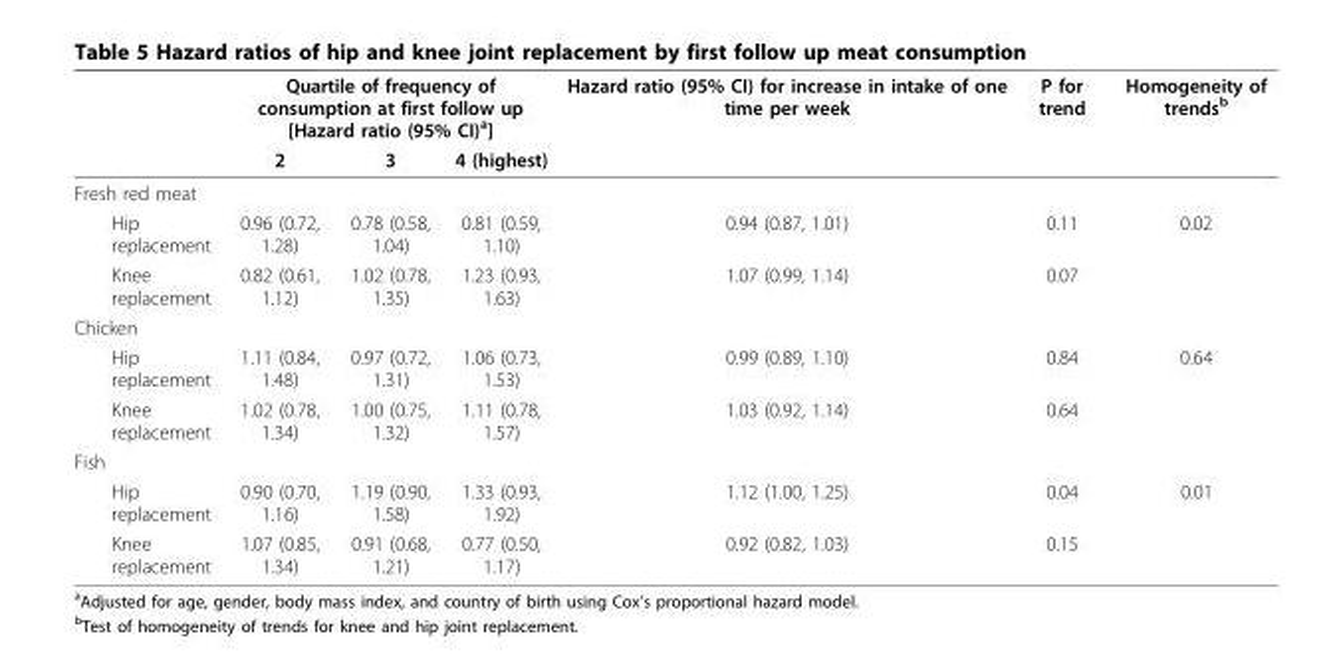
<table><thead><tr><td rowspan="2"></td><td colspan="3">Quartile of frequency of consumption at first follow up [Hazard ratio (95% CI)<sup>a</sup>]</td><td rowspan="2">Hazard ratio (95% CI) for increase in intake of one time per week</td><td rowspan="2">P for trend</td><td rowspan="2">Homogeneity of trends<sup>b</sup></td></tr><tr><td>2</td><td>3</td><td>4 (highest)</td></tr></thead><tbody><tr><td colspan="7">Fresh red meat</td></tr><tr><td>Hip replacement</td><td>0.96 (0.72, 1.28)</td><td>0.78 (0.58, 1.04)</td><td>0.81 (0.59, 1.10)</td><td>0.94 (0.87, 1.01)</td><td>0.11</td><td>0.02</td></tr><tr><td>Knee replacement</td><td>0.82 (0.61, 1.12)</td><td>1.02 (0.78, 1.35)</td><td>1.23 (0.93, 1.63)</td><td>1.07 (0.99, 1.14)</td><td>0.07</td><td></td></tr><tr><td colspan="7">Chicken</td></tr><tr><td>Hip replacement</td><td>1.11 (0.84, 1.48)</td><td>0.97 (0.72, 1.31)</td><td>1.06 (0.73, 1.53)</td><td>0.99 (0.89, 1.10)</td><td>0.84</td><td>0.64</td></tr><tr><td>Knee replacement</td><td>1.02 (0.78, 1.34)</td><td>1.00 (0.75, 1.32)</td><td>1.11 (0.78, 1.57)</td><td>1.03 (0.92, 1.14)</td><td>0.64</td><td></td></tr><tr><td colspan="7">Fish</td></tr><tr><td>Hip replacement</td><td>0.90 (0.70, 1.16)</td><td>1.19 (0.90, 1.58)</td><td>1.33 (0.93, 1.92)</td><td>1.12 (1.00, 1.25)</td><td>0.04</td><td>0.01</td></tr><tr><td>Knee replacement</td><td>1.07 (0.85, 1.34)</td><td>0.91 (0.68, 1.21)</td><td>0.77 (0.50, 1.17)</td><td>0.92 (0.82, 1.03)</td><td>0.15</td><td></td></tr></tbody></table>